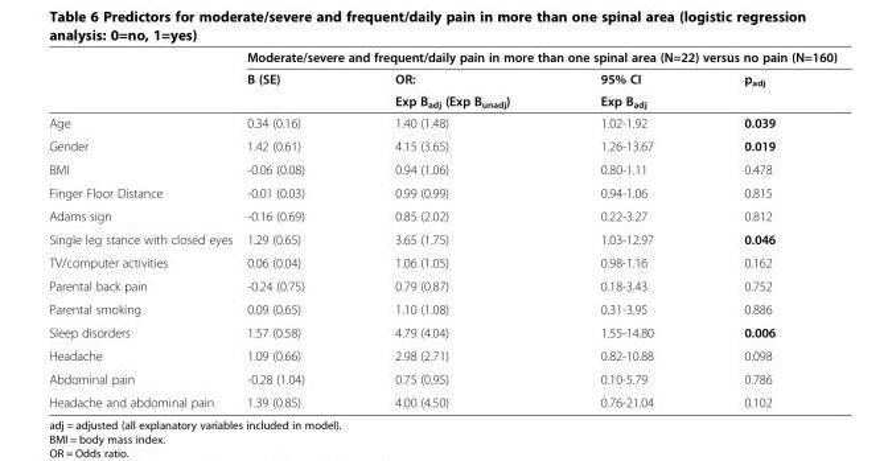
<table><thead><tr><td rowspan="3"></td><td colspan="4">Moderate/severe and frequent/daily pain in more than one spinal area (N=22) versus no pain (N=160)</td></tr><tr><td rowspan="2">B (SE)</td><td rowspan="2">OR: Exp B<sub>adj</sub> (Exp B<sub>unadj</sub>)</td><td rowspan="2">95% CI Exp B<sub>adj</sub></td><td rowspan="2">p<sub>adj</sub></td></tr><tr></tr></thead><tbody><tr><td>Age</td><td>0.34 (0.16)</td><td>1.40 (1.48)</td><td>1.02-1.92</td><td>0.039</td></tr><tr><td>Gender</td><td>1.42 (0.61)</td><td>4.15 (3.65)</td><td>1.26-13.67</td><td>0.019</td></tr><tr><td>BMI</td><td>-0.06 (0.08)</td><td>0.94 (1.06)</td><td>0.80-1.11</td><td>0.478</td></tr><tr><td>Finger Floor Distance</td><td>-0.01 (0.03)</td><td>0.99 (0.99)</td><td>0.94-1.06</td><td>0.815</td></tr><tr><td>Adams sign</td><td>-0.16 (0.69)</td><td>0.85 (2.02)</td><td>0.22-3.27</td><td>0.812</td></tr><tr><td>Single leg stance with closed eyes</td><td>1.29 (0.65)</td><td>3.65 (1.75)</td><td>1.03-12.97</td><td>0.046</td></tr><tr><td>TV/computer activities</td><td>0.06 (0.04)</td><td>1.06 (1.05)</td><td>0.98-1.16</td><td>0.162</td></tr><tr><td>Parental back pain</td><td>-0.24 (0.75)</td><td>0.79 (0.87)</td><td>0.18-3.43</td><td>0.752</td></tr><tr><td>Parental smoking</td><td>0.09 (0.65)</td><td>1.10 (1.08)</td><td>0.31-3.95</td><td>0.886</td></tr><tr><td>Sleep disorders</td><td>1.57 (0.58)</td><td>4.79 (4.04)</td><td>1.55-14.80</td><td>0.006</td></tr><tr><td>Headache</td><td>1.09 (0.66)</td><td>2.98 (2.71)</td><td>0.82-10.88</td><td>0.098</td></tr><tr><td>Abdominal pain</td><td>-0.28 (1.04)</td><td>0.75 (0.95)</td><td>0.10-5.79</td><td>0.786</td></tr><tr><td>Headache and abdominal pain</td><td>1.39 (0.85)</td><td>4.00 (4.50)</td><td>0.76-21.04</td><td>0.102</td></tr></tbody></table>